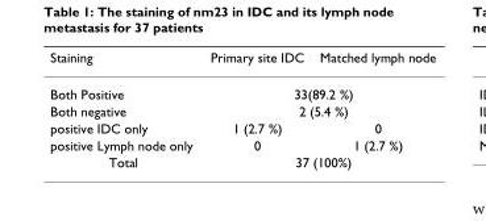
<table><thead><tr><td>Staining</td><td>Primary site IDC</td><td>Matched lymph node</td></tr></thead><tbody><tr><td>Both Positive</td><td colspan="2">33(89.2 %)</td></tr><tr><td>Both negative</td><td colspan="2">2 (5.4 %)</td></tr><tr><td>positive IDC only</td><td>1 (2.7 %)</td><td>0</td></tr><tr><td>positive Lymph node only</td><td>0</td><td>1 (2.7 %)</td></tr><tr><td>Total</td><td colspan="2">37 (100%)</td></tr></tbody></table>